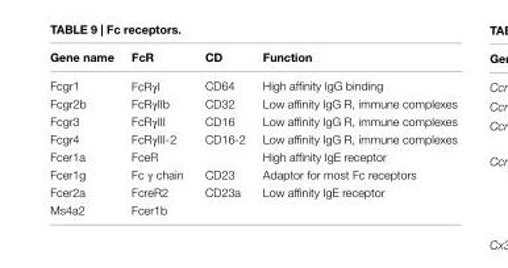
<table><thead><tr><td>Gene name</td><td>FcR</td><td>CD</td><td>Function</td></tr></thead><tbody><tr><td>Fcgr1</td><td>FcRγI</td><td>CD64</td><td>High affinity IgG binding</td></tr><tr><td>Fcgr2b</td><td>FcRγIIb</td><td>CD32</td><td>Low affinity IgG R, immune complexes</td></tr><tr><td>Fcgr3</td><td>FcRγIII</td><td>CD16</td><td>Low affinity IgG R, immune complexes</td></tr><tr><td>Fcgr4</td><td>FcRγIII-2</td><td>CD16-2</td><td>Low affinity IgG R, immune complexes</td></tr><tr><td>Fcer1a</td><td>FceR</td><td></td><td>High affinity IgE receptor</td></tr><tr><td>Fcer1g</td><td>Fc γ chain</td><td>CD23</td><td>Adaptor for most Fc receptors</td></tr><tr><td>Fcer2a</td><td>FcreR2</td><td>CD23a</td><td>Low affinity IgE receptor</td></tr><tr><td>Ms4a2</td><td>Fcer1b</td><td></td><td></td></tr></tbody></table>